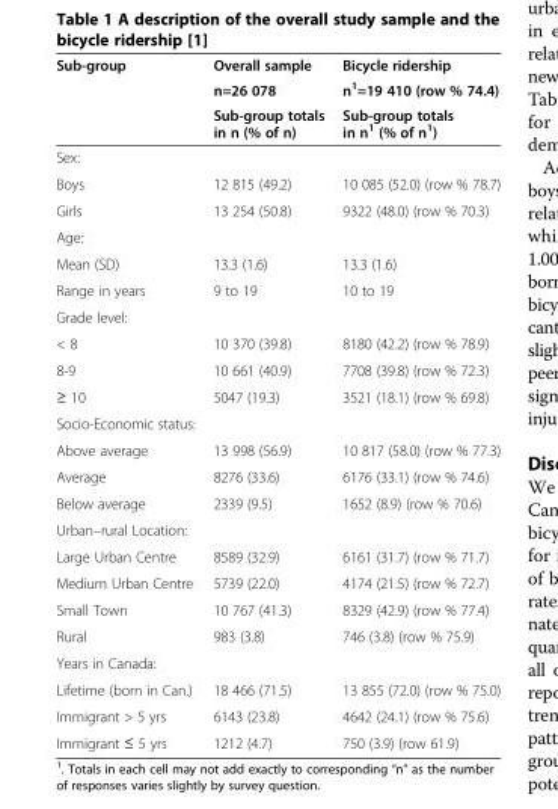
<table><thead><tr><td rowspan="3">Sub-group</td><td rowspan="3">Overall sample n=26 078 Sub-group totals in n (% of n)</td><td rowspan="3">Bicycle ridership n<sup>1</sup>=19 410 (row % 74.4) Sub-group totals in n<sup>1</sup> (% of n<sup>1</sup>)</td></tr><tr></tr><tr></tr></thead><tbody><tr><td colspan="3">Sex:</td></tr><tr><td>Boys</td><td>12 815 (49.2)</td><td>10 085 (52.0) (row % 78.7)</td></tr><tr><td>Girls</td><td>13 254 (50.8)</td><td>9322 (48.0) (row % 70.3)</td></tr><tr><td colspan="3">Age:</td></tr><tr><td>Mean (SD)</td><td>13.3 (1.6)</td><td>13.3 (1.6)</td></tr><tr><td>Range in years</td><td>9 to 19</td><td>10 to 19</td></tr><tr><td colspan="3">Grade level:</td></tr><tr><td>&lt; 8</td><td>10 370 (39.8)</td><td>8180 (42.2) (row % 78.9)</td></tr><tr><td>8-9</td><td>10 661 (40.9)</td><td>7708 (39.8) (row % 72.3)</td></tr><tr><td>≥ 10</td><td>5047 (19.3)</td><td>3521 (18.1) (row % 69.8)</td></tr><tr><td colspan="3">Socio-Economic status:</td></tr><tr><td>Above average</td><td>13 998 (56.9)</td><td>10 817 (58.0) (row % 77.3)</td></tr><tr><td>Average</td><td>8276 (33.6)</td><td>6176 (33.1) (row % 74.6)</td></tr><tr><td>Below average</td><td>2339 (9.5)</td><td>1652 (8.9) (row % 70.6)</td></tr><tr><td colspan="3">Urban–rural Location:</td></tr><tr><td>Large Urban Centre</td><td>8589 (32.9)</td><td>6161 (31.7) (row % 71.7)</td></tr><tr><td>Medium Urban Centre</td><td>5739 (22.0)</td><td>4174 (21.5) (row % 72.7)</td></tr><tr><td>Small Town</td><td>10 767 (41.3)</td><td>8329 (42.9) (row % 77.4)</td></tr><tr><td>Rural</td><td>983 (3.8)</td><td>746 (3.8) (row % 75.9)</td></tr><tr><td colspan="3">Years in Canada:</td></tr><tr><td>Lifetime (born in Can.)</td><td>18 466 (71.5)</td><td>13 855 (72.0) (row % 75.0)</td></tr><tr><td>Immigrant &gt; 5 yrs</td><td>6143 (23.8)</td><td>4642 (24.1) (row % 75.6)</td></tr><tr><td>Immigrant ≤ 5 yrs</td><td>1212 (4.7)</td><td>750 (3.9) (row 61.9)</td></tr></tbody></table>